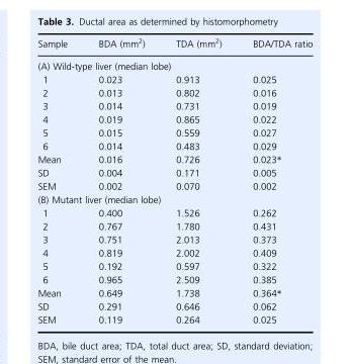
<table><thead><tr><td>Sample</td><td>BDA (mm<sup>2</sup>)</td><td>TDA (mm<sup>2</sup>)</td><td>BDA/TDA ratio</td></tr></thead><tbody><tr><td colspan="4">(A) Wild-type liver (median lobe)</td></tr><tr><td>1</td><td>0.023</td><td>0.913</td><td>0.025</td></tr><tr><td>2</td><td>0.013</td><td>0.802</td><td>0.016</td></tr><tr><td>3</td><td>0.014</td><td>0.731</td><td>0.019</td></tr><tr><td>4</td><td>0.019</td><td>0.865</td><td>0.022</td></tr><tr><td>5</td><td>0.015</td><td>0.559</td><td>0.027</td></tr><tr><td>6</td><td>0.014</td><td>0.483</td><td>0.029</td></tr><tr><td>Mean</td><td>0.016</td><td>0.726</td><td>0.023*</td></tr><tr><td>SD</td><td>0.004</td><td>0.171</td><td>0.005</td></tr><tr><td>SEM</td><td>0.002</td><td>0.070</td><td>0.002</td></tr><tr><td colspan="4">(B) Mutant liver (median lobe)</td></tr><tr><td>1</td><td>0.400</td><td>1.526</td><td>0.262</td></tr><tr><td>2</td><td>0.767</td><td>1.780</td><td>0.431</td></tr><tr><td>3</td><td>0.751</td><td>2.013</td><td>0.373</td></tr><tr><td>4</td><td>0.819</td><td>2.002</td><td>0.409</td></tr><tr><td>5</td><td>0.192</td><td>0.597</td><td>0.322</td></tr><tr><td>6</td><td>0.965</td><td>2.509</td><td>0.385</td></tr><tr><td>Mean</td><td>0.649</td><td>1.738</td><td>0.364*</td></tr><tr><td>SD</td><td>0.291</td><td>0.646</td><td>0.062</td></tr><tr><td>SEM</td><td>0.119</td><td>0.264</td><td>0.025</td></tr></tbody></table>